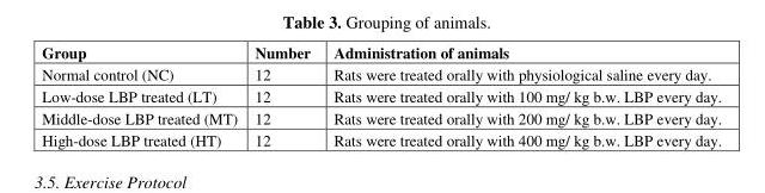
<table><thead><tr><td>Group</td><td>Number</td><td>Administration of animals</td></tr></thead><tbody><tr><td>Normal control (NC)</td><td>12</td><td>Rats were treated orally with physiological saline every day.</td></tr><tr><td>Low-dose LBP treated (LT)</td><td>12</td><td>Rats were treated orally with 100 mg/ kg b.w. LBP every day.</td></tr><tr><td>Middle-dose LBP treated (MT)</td><td>12</td><td>Rats were treated orally with 200 mg/ kg b.w. LBP every day.</td></tr><tr><td>High-dose LBP treated (HT)</td><td>12</td><td>Rats were treated orally with 400 mg/ kg b.w. LBP every day.</td></tr></tbody></table>